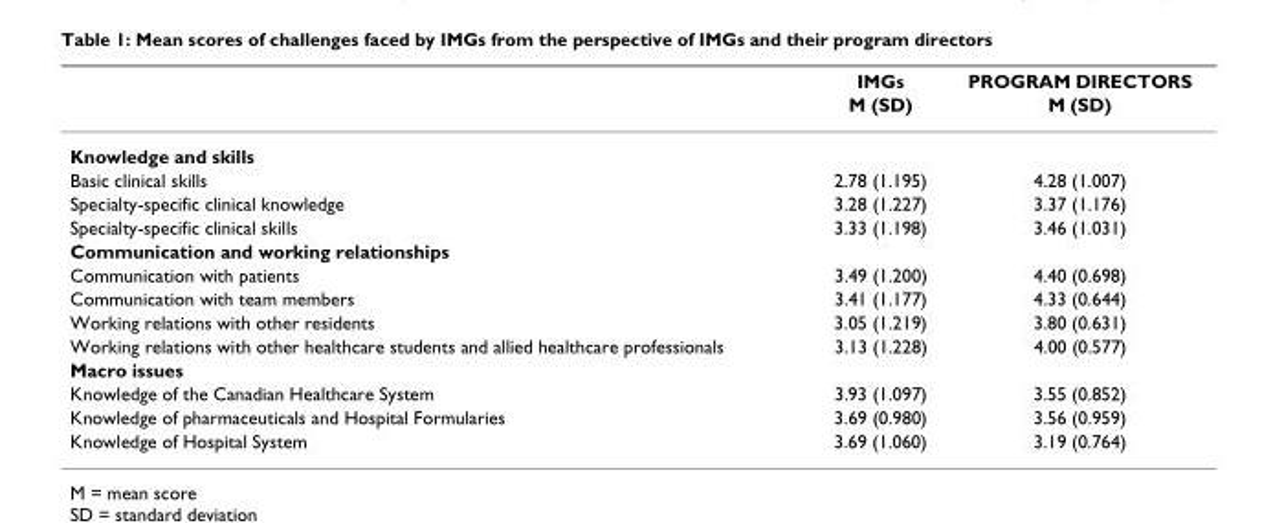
<table><thead><tr><td rowspan="2"></td><td rowspan="2">IMGs M (SD)</td><td rowspan="2">PROGRAM DIRECTORS M (SD)</td></tr><tr></tr></thead><tbody><tr><td colspan="3">Knowledge and skills</td></tr><tr><td>Basic clinical skills</td><td>2.78 (1.195)</td><td>4.28 (1.007)</td></tr><tr><td>Specialty-specific clinical knowledge</td><td>3.28 (1.227)</td><td>3.37 (1.176)</td></tr><tr><td>Specialty-specific clinical skills</td><td>3.33 (1.198)</td><td>3.46 (1.031)</td></tr><tr><td colspan="3">Communication and working relationships</td></tr><tr><td>Communication with patients</td><td>3.49 (1.200)</td><td>4.40 (0.698)</td></tr><tr><td>Communication with team members</td><td>3.41 (1.177)</td><td>4.33 (0.644)</td></tr><tr><td>Working relations with other residents</td><td>3.05 (1.219)</td><td>3.80 (0.631)</td></tr><tr><td>Working relations with other healthcare students and allied healthcare professionals</td><td>3.13 (1.228)</td><td>4.00 (0.577)</td></tr><tr><td colspan="3">Macro issues</td></tr><tr><td>Knowledge of the Canadian Healthcare System</td><td>3.93 (1.097)</td><td>3.55 (0.852)</td></tr><tr><td>Knowledge of pharmaceuticals and Hospital Formularies</td><td>3.69 (0.980)</td><td>3.56 (0.959)</td></tr><tr><td>Knowledge of Hospital System</td><td>3.69 (1.060)</td><td>3.19 (0.764)</td></tr></tbody></table>